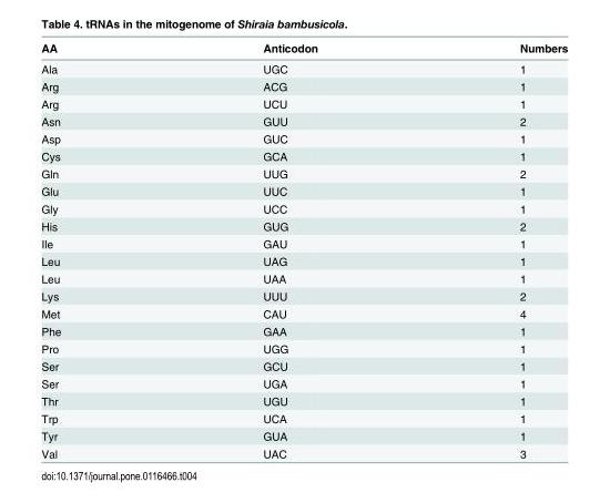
<table><thead><tr><td>AA</td><td>Anticodon</td><td>Numbers</td></tr></thead><tbody><tr><td>Ala</td><td>UGC</td><td>1</td></tr><tr><td>Arg</td><td>ACG</td><td>1</td></tr><tr><td>Arg</td><td>UCU</td><td>1</td></tr><tr><td>Asn</td><td>GUU</td><td>2</td></tr><tr><td>Asp</td><td>GUC</td><td>1</td></tr><tr><td>Cys</td><td>GCA</td><td>1</td></tr><tr><td>Gln</td><td>UUG</td><td>2</td></tr><tr><td>Glu</td><td>UUC</td><td>1</td></tr><tr><td>Gly</td><td>UCC</td><td>1</td></tr><tr><td>His</td><td>GUG</td><td>2</td></tr><tr><td>Ile</td><td>GAU</td><td>1</td></tr><tr><td>Leu</td><td>UAG</td><td>1</td></tr><tr><td>Leu</td><td>UAA</td><td>1</td></tr><tr><td>Lys</td><td>UUU</td><td>2</td></tr><tr><td>Met</td><td>CAU</td><td>4</td></tr><tr><td>Phe</td><td>GAA</td><td>1</td></tr><tr><td>Pro</td><td>UGG</td><td>1</td></tr><tr><td>Ser</td><td>GCU</td><td>1</td></tr><tr><td>Ser</td><td>UGA</td><td>1</td></tr><tr><td>Thr</td><td>UGU</td><td>1</td></tr><tr><td>Trp</td><td>UCA</td><td>1</td></tr><tr><td>Tyr</td><td>GUA</td><td>1</td></tr><tr><td>Val</td><td>UAC</td><td>3</td></tr></tbody></table>